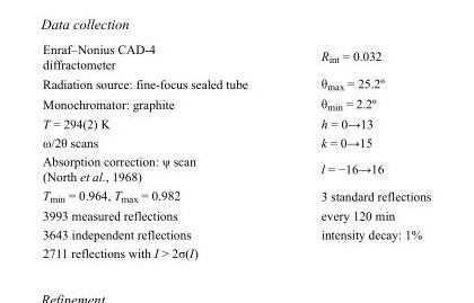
<table><tbody><tr><td>Enraf–Nonius CAD-4 diffractometer</td><td>R<sub>int</sub> = 0.032</td></tr><tr><td>Radiation source: fine-focus sealed tube</td><td>θ<sub>max</sub> = 25.2º</td></tr><tr><td>Monochromator: graphite</td><td>θ<sub>min</sub> = 2.2º</td></tr><tr><td>T = 294(2) K</td><td>h = 0→13</td></tr><tr><td>ω/2θ scans</td><td>k = 0→15</td></tr><tr><td>Absorption correction: ψ scan (North et al., 1968)</td><td>l = −16→16</td></tr><tr><td>T<sub>min</sub> = 0.964, T<sub>max</sub> = 0.982</td><td>3 standard reflections</td></tr><tr><td>3993 measured reflections</td><td>every 120 min</td></tr><tr><td>3643 independent reflections</td><td>intensity decay: 1%</td></tr><tr><td>2711 reflections with I &gt; 2σ(I)</td><td></td></tr></tbody></table>